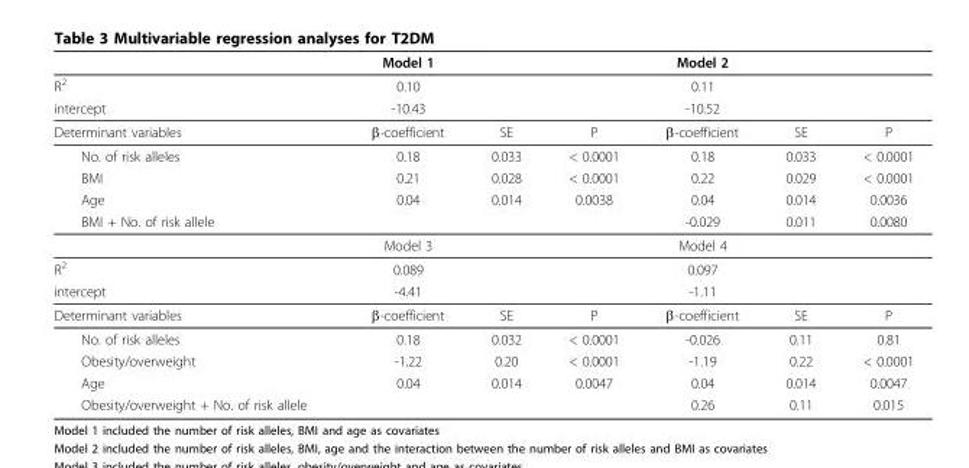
<table><thead><tr><td></td><td>Model 1</td><td></td><td></td><td>Model 2</td><td></td><td></td></tr></thead><tbody><tr><td>R<sup>2</sup></td><td>0.10</td><td></td><td></td><td>0.11</td><td></td><td></td></tr><tr><td>intercept</td><td>-10.43</td><td></td><td></td><td>-10.52</td><td></td><td></td></tr><tr><td>Determinant variables</td><td>β-coefficient</td><td>SE</td><td>P</td><td>β-coefficient</td><td>SE</td><td>P</td></tr><tr><td>No. of risk alleles</td><td>0.18</td><td>0.033</td><td>&lt; 0.0001</td><td>0.18</td><td>0.033</td><td>&lt; 0.0001</td></tr><tr><td>BMI</td><td>0.21</td><td>0.028</td><td>&lt; 0.0001</td><td>0.22</td><td>0.029</td><td>&lt; 0.0001</td></tr><tr><td>Age</td><td>0.04</td><td>0.014</td><td>0.0038</td><td>0.04</td><td>0.014</td><td>0.0036</td></tr><tr><td rowspan="2">BMI + No. of risk allele</td><td></td><td></td><td></td><td>-0.029</td><td>0.011</td><td>0.0080</td></tr><tr><td>Model 3</td><td></td><td></td><td>Model 4</td><td></td><td></td></tr><tr><td>R<sup>2</sup></td><td>0.089</td><td></td><td></td><td>0.097</td><td></td><td></td></tr><tr><td>intercept</td><td>-4.41</td><td></td><td></td><td>-1.11</td><td></td><td></td></tr><tr><td>Determinant variables</td><td>β-coefficient</td><td>SE</td><td>P</td><td>β-coefficient</td><td>SE</td><td>P</td></tr><tr><td>No. of risk alleles</td><td>0.18</td><td>0.032</td><td>&lt; 0.0001</td><td>-0.026</td><td>0.11</td><td>0.81</td></tr><tr><td>Obesity/overweight</td><td>-1.22</td><td>0.20</td><td>&lt; 0.0001</td><td>-1.19</td><td>0.22</td><td>&lt; 0.0001</td></tr><tr><td>Age</td><td>0.04</td><td>0.014</td><td>0.0047</td><td>0.04</td><td>0.014</td><td>0.0047</td></tr><tr><td>Obesity/overweight + No. of risk allele</td><td></td><td></td><td></td><td>0.26</td><td>0.11</td><td>0.015</td></tr></tbody></table>